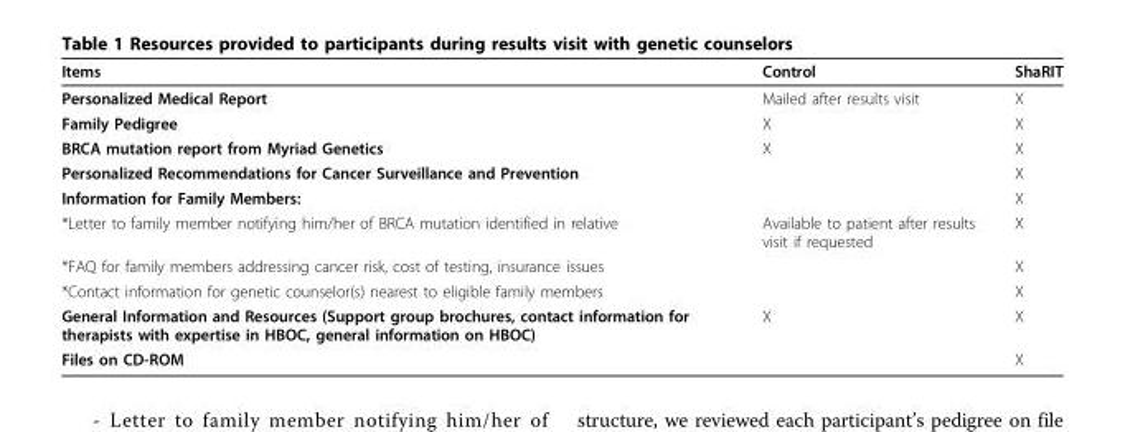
<table><thead><tr><td>Items</td><td>Control</td><td>ShaRIT</td></tr></thead><tbody><tr><td>Personalized Medical Report</td><td>Mailed after results visit</td><td>X</td></tr><tr><td>Family Pedigree</td><td>X</td><td>X</td></tr><tr><td>BRCA mutation report from Myriad Genetics</td><td>X</td><td>X</td></tr><tr><td>Personalized Recommendations for Cancer Surveillance and Prevention</td><td></td><td>X</td></tr><tr><td>Information for Family Members:</td><td></td><td>X</td></tr><tr><td>*Letter to family member notifying him/her of BRCA mutation identified in relative</td><td>Available to patient after results visit if requested</td><td>X</td></tr><tr><td>*FAQ for family members addressing cancer risk, cost of testing, insurance issues</td><td></td><td>X</td></tr><tr><td>*Contact information for genetic counselor(s) nearest to eligible family members</td><td></td><td>X</td></tr><tr><td>General Information and Resources (Support group brochures, contact information for therapists with expertise in HBOC, general information on HBOC)</td><td>X</td><td>X</td></tr><tr><td>Files on CD-ROM</td><td></td><td>X</td></tr></tbody></table>